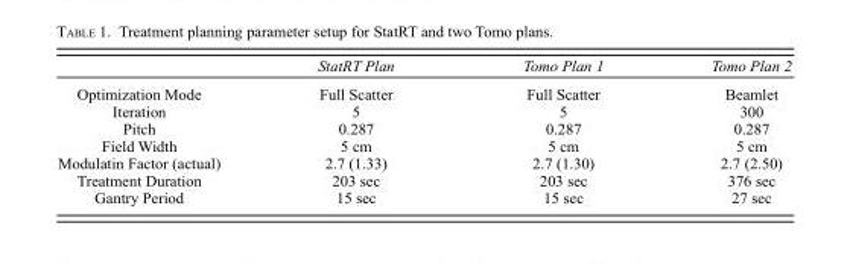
<table><thead><tr><td></td><td>StatRT Plan</td><td>Tomo Plan 1</td><td>Tomo Plan 2</td></tr></thead><tbody><tr><td>Optimization Mode</td><td>Full Scatter</td><td>Full Scatter</td><td>Beamlet</td></tr><tr><td>Iteration</td><td>5</td><td>5</td><td>300</td></tr><tr><td>Pitch</td><td>0.287</td><td>0.287</td><td>0.287</td></tr><tr><td>Field Width</td><td>5 cm</td><td>5 cm</td><td>5 cm</td></tr><tr><td>Modulatin Factor (actual)</td><td>2.7 (1.33)</td><td>2.7 (1.30)</td><td>2.7 (2.50)</td></tr><tr><td>Treatment Duration</td><td>203 sec</td><td>203 sec</td><td>376 sec</td></tr><tr><td>Gantry Period</td><td>15 sec</td><td>15 sec</td><td>27 sec</td></tr></tbody></table>